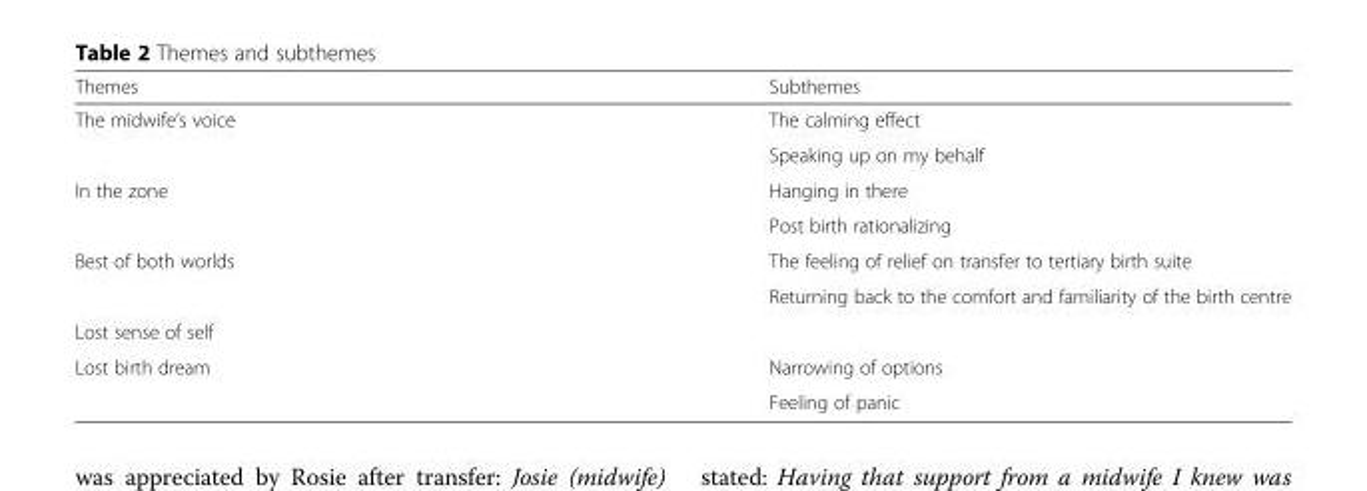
<table><thead><tr><td>Themes</td><td>Subthemes</td></tr></thead><tbody><tr><td rowspan="2">The midwife’s voice</td><td>The calming effect</td></tr><tr><td>Speaking up on my behalf</td></tr><tr><td rowspan="2">In the zone</td><td>Hanging in there</td></tr><tr><td>Post birth rationalizing</td></tr><tr><td rowspan="2">Best of both worlds</td><td>The feeling of relief on transfer to tertiary birth suite</td></tr><tr><td>Returning back to the comfort and familiarity of the birth centre</td></tr><tr><td colspan="2">Lost sense of self</td></tr><tr><td rowspan="2">Lost birth dream</td><td>Narrowing of options</td></tr><tr><td>Feeling of panic</td></tr></tbody></table>